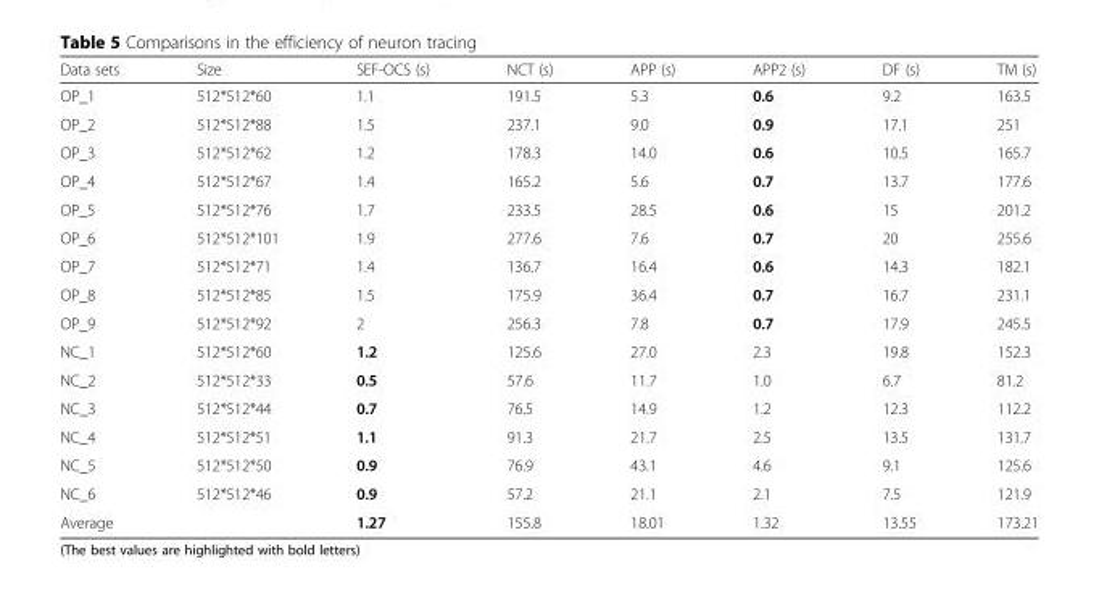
<table><thead><tr><td>Data sets</td><td>Size</td><td>SEF-OCS (s)</td><td>NCT (s)</td><td>APP (s)</td><td>APP2 (s)</td><td>DF (s)</td><td>TM (s)</td></tr></thead><tbody><tr><td>OP_1</td><td>512*512*60</td><td>1.1</td><td>191.5</td><td>5.3</td><td>0.6</td><td>9.2</td><td>163.5</td></tr><tr><td>OP_2</td><td>512*512*88</td><td>1.5</td><td>237.1</td><td>9.0</td><td>0.9</td><td>17.1</td><td>251</td></tr><tr><td>OP_3</td><td>512*512*62</td><td>1.2</td><td>178.3</td><td>14.0</td><td>0.6</td><td>10.5</td><td>165.7</td></tr><tr><td>OP_4</td><td>512*512*67</td><td>1.4</td><td>165.2</td><td>5.6</td><td>0.7</td><td>13.7</td><td>177.6</td></tr><tr><td>OP_5</td><td>512*512*76</td><td>1.7</td><td>233.5</td><td>28.5</td><td>0.6</td><td>15</td><td>201.2</td></tr><tr><td>OP_6</td><td>512*512*101</td><td>1.9</td><td>277.6</td><td>7.6</td><td>0.7</td><td>20</td><td>255.6</td></tr><tr><td>OP_7</td><td>512*512*71</td><td>1.4</td><td>136.7</td><td>16.4</td><td>0.6</td><td>14.3</td><td>182.1</td></tr><tr><td>OP_8</td><td>512*512*85</td><td>1.5</td><td>175.9</td><td>36.4</td><td>0.7</td><td>16.7</td><td>231.1</td></tr><tr><td>OP_9</td><td>512*512*92</td><td>2</td><td>256.3</td><td>7.8</td><td>0.7</td><td>17.9</td><td>245.5</td></tr><tr><td>NC_1</td><td>512*512*60</td><td>1.2</td><td>125.6</td><td>27.0</td><td>2.3</td><td>19.8</td><td>152.3</td></tr><tr><td>NC_2</td><td>512*512*33</td><td>0.5</td><td>57.6</td><td>11.7</td><td>1.0</td><td>6.7</td><td>81.2</td></tr><tr><td>NC_3</td><td>512*512*44</td><td>0.7</td><td>76.5</td><td>14.9</td><td>1.2</td><td>12.3</td><td>112.2</td></tr><tr><td>NC_4</td><td>512*512*51</td><td>1.1</td><td>91.3</td><td>21.7</td><td>2.5</td><td>13.5</td><td>131.7</td></tr><tr><td>NC_5</td><td>512*512*50</td><td>0.9</td><td>76.9</td><td>43.1</td><td>4.6</td><td>9.1</td><td>125.6</td></tr><tr><td>NC_6</td><td>512*512*46</td><td>0.9</td><td>57.2</td><td>21.1</td><td>2.1</td><td>7.5</td><td>121.9</td></tr><tr><td colspan="2">Average</td><td>1.27</td><td>155.8</td><td>18.01</td><td>1.32</td><td>13.55</td><td>173.21</td></tr></tbody></table>